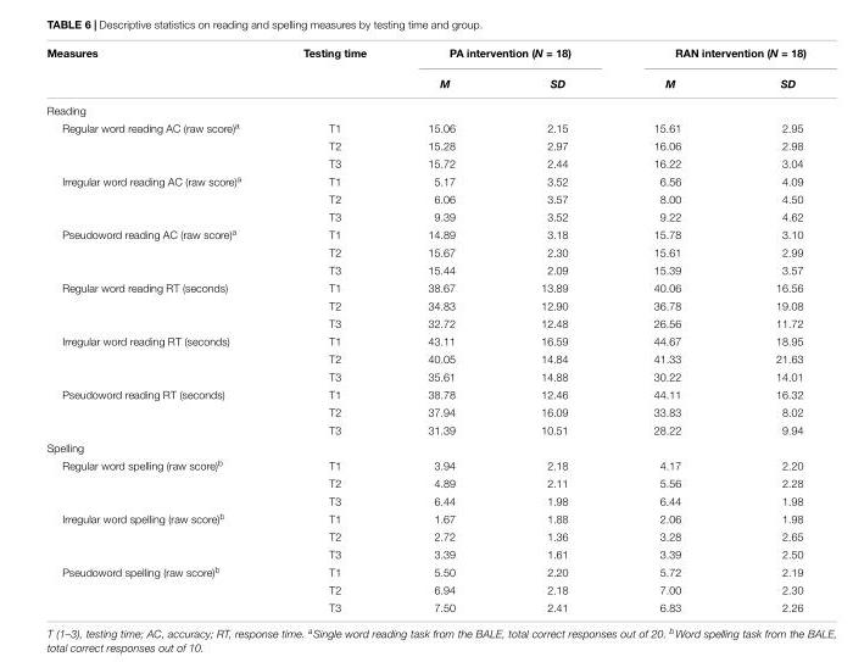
<table><thead><tr><td rowspan="2">Measures</td><td rowspan="2">Testing time</td><td colspan="2">PA intervention (N = 18)</td><td colspan="2">RAN intervention (N = 18)</td></tr><tr><td>M</td><td>SD</td><td>M</td><td>SD</td></tr></thead><tbody><tr><td colspan="6">Reading</td></tr><tr><td rowspan="3">Regular word reading AC (raw score)<sup>a</sup></td><td>T1</td><td>15.06</td><td>2.15</td><td>15.61</td><td>2.95</td></tr><tr><td>T2</td><td>15.28</td><td>2.97</td><td>16.06</td><td>2.98</td></tr><tr><td>T3</td><td>15.72</td><td>2.44</td><td>16.22</td><td>3.04</td></tr><tr><td rowspan="3">Irregular word reading AC (raw score)<sup>a</sup></td><td>T1</td><td>5.17</td><td>3.52</td><td>6.56</td><td>4.09</td></tr><tr><td>T2</td><td>6.06</td><td>3.57</td><td>8.00</td><td>4.50</td></tr><tr><td>T3</td><td>9.39</td><td>3.52</td><td>9.22</td><td>4.62</td></tr><tr><td rowspan="3">Pseudoword reading AC (raw score)<sup>a</sup></td><td>T1</td><td>14.89</td><td>3.18</td><td>15.78</td><td>3.10</td></tr><tr><td>T2</td><td>15.67</td><td>2.30</td><td>15.61</td><td>2.99</td></tr><tr><td>T3</td><td>15.44</td><td>2.09</td><td>15.39</td><td>3.57</td></tr><tr><td rowspan="3">Regular word reading RT (seconds)</td><td>T1</td><td>38.67</td><td>13.89</td><td>40.06</td><td>16.56</td></tr><tr><td>T2</td><td>34.83</td><td>12.90</td><td>36.78</td><td>19.08</td></tr><tr><td>T3</td><td>32.72</td><td>12.48</td><td>26.56</td><td>11.72</td></tr><tr><td rowspan="3">Irregular word reading RT (seconds)</td><td>T1</td><td>43.11</td><td>16.59</td><td>44.67</td><td>18.95</td></tr><tr><td>T2</td><td>40.05</td><td>14.84</td><td>41.33</td><td>21.63</td></tr><tr><td>T3</td><td>35.61</td><td>14.88</td><td>30.22</td><td>14.01</td></tr><tr><td rowspan="3">Pseudoword reading RT (seconds)</td><td>T1</td><td>38.78</td><td>12.46</td><td>44.11</td><td>16.32</td></tr><tr><td>T2</td><td>37.94</td><td>16.09</td><td>33.83</td><td>8.02</td></tr><tr><td>T3</td><td>31.39</td><td>10.51</td><td>28.22</td><td>9.94</td></tr><tr><td colspan="6">Spelling</td></tr><tr><td rowspan="3">Regular word spelling (raw score)<sup>b</sup></td><td>T1</td><td>3.94</td><td>2.18</td><td>4.17</td><td>2.20</td></tr><tr><td>T2</td><td>4.89</td><td>2.11</td><td>5.56</td><td>2.28</td></tr><tr><td>T3</td><td>6.44</td><td>1.98</td><td>6.44</td><td>1.98</td></tr><tr><td rowspan="3">Irregular word spelling (raw score)<sup>b</sup></td><td>T1</td><td>1.67</td><td>1.88</td><td>2.06</td><td>1.98</td></tr><tr><td>T2</td><td>2.72</td><td>1.36</td><td>3.28</td><td>2.65</td></tr><tr><td>T3</td><td>3.39</td><td>1.61</td><td>3.39</td><td>2.50</td></tr><tr><td rowspan="3">Pseudoword spelling (raw score)<sup>b</sup></td><td>T1</td><td>5.50</td><td>2.20</td><td>5.72</td><td>2.19</td></tr><tr><td>T2</td><td>6.94</td><td>2.18</td><td>7.00</td><td>2.30</td></tr><tr><td>T3</td><td>7.50</td><td>2.41</td><td>6.83</td><td>2.26</td></tr></tbody></table>